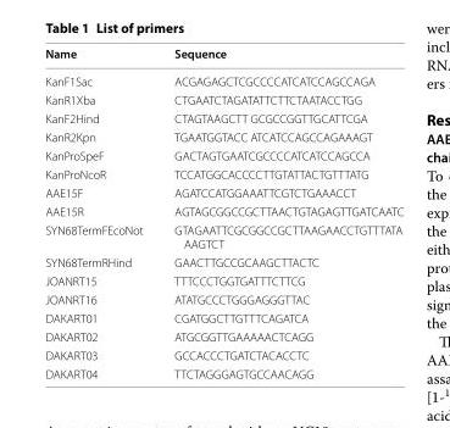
<table><thead><tr><td>Name</td><td>Sequence</td></tr></thead><tbody><tr><td>KanF1Sac</td><td>ACGAGAGCTCGCCCCATCATCCAGCCAGA</td></tr><tr><td>KanR1Xba</td><td>CTGAATCTAGATATTCTTCTAATACCTGG</td></tr><tr><td>KanF2Hind</td><td>CTAGTAAGCTT GCGCCGGTTGCATTCGA</td></tr><tr><td>KanR2Kpn</td><td>TGAATGGTACC ATCATCCAGCCAGAAAGT</td></tr><tr><td>KanProSpeF</td><td>GACTAGTGAATCGCCCCATCATCCAGCCA</td></tr><tr><td>KanProNcoR</td><td>TCCATGGCACCCCTTGTATTACTGTTTATG</td></tr><tr><td>AAE15F</td><td>AGATCCATGGAAATTCGTCTGAAACCT</td></tr><tr><td>AAE15R</td><td>AGTAGCGGCCGCTTAACTGTAGAGTTGATCAATC</td></tr><tr><td>SYN68TermFEcoNot</td><td>GTAGAATTCGCGGCCGCTTAAGAACCTGTTTATA AAGTCT</td></tr><tr><td>SYN68TermRHind</td><td>GAACTTGCCGCAAGCTTACTC</td></tr><tr><td>JOANRT15</td><td>TTTCCCTGGTGATTTCTTCG</td></tr><tr><td>JOANRT16</td><td>ATATGCCCTGGGAGGGTTAC</td></tr><tr><td>DAKART01</td><td>CGATGGCTTGTTTCAGATCA</td></tr><tr><td>DAKART02</td><td>ATGCGGTTGAAAAACTCAGG</td></tr><tr><td>DAKART03</td><td>GCCACCCTGATCTACACCTC</td></tr><tr><td>DAKART04</td><td>TTCTAGGGAGTGCCAACAGG</td></tr></tbody></table>